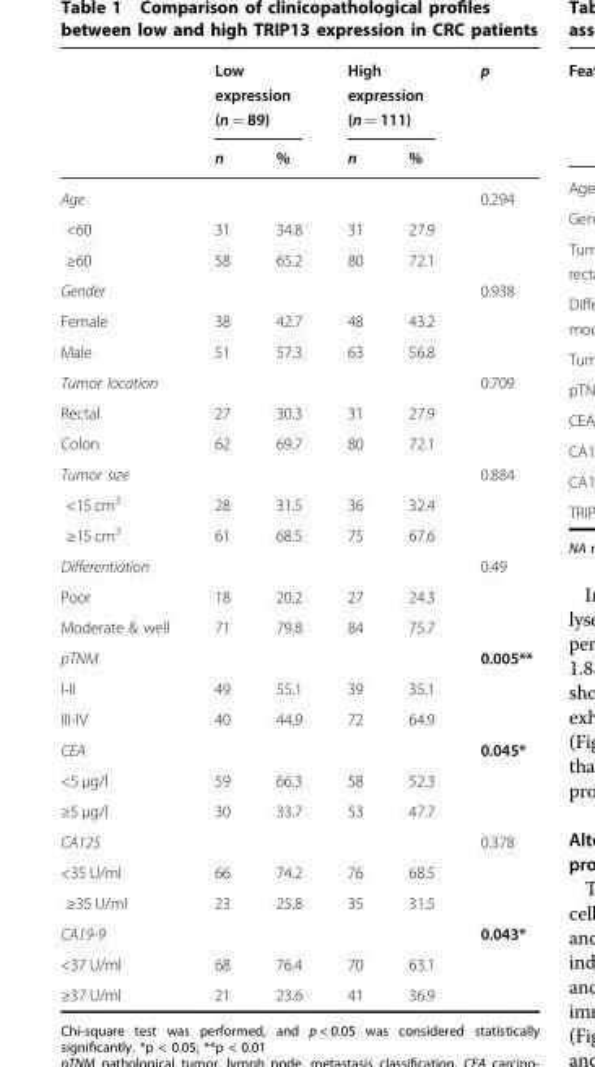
<table><thead><tr><td rowspan="2"></td><td colspan="2">Low expression (n = 89)</td><td colspan="2">High expression (n = 111)</td><td rowspan="2">p</td></tr><tr><td>n</td><td>%</td><td>n</td><td>%</td></tr></thead><tbody><tr><td>Age</td><td></td><td></td><td></td><td></td><td>0.294</td></tr><tr><td>&lt;60</td><td>31</td><td>34.8</td><td>31</td><td>27.9</td><td></td></tr><tr><td>≥60</td><td>58</td><td>65.2</td><td>80</td><td>72.1</td><td></td></tr><tr><td>Gender</td><td></td><td></td><td></td><td></td><td>0.938</td></tr><tr><td>Female</td><td>38</td><td>42.7</td><td>48</td><td>43.2</td><td></td></tr><tr><td>Male</td><td>51</td><td>57.3</td><td>63</td><td>56.8</td><td></td></tr><tr><td>Tumor location</td><td></td><td></td><td></td><td></td><td>0.709</td></tr><tr><td>Rectal</td><td>27</td><td>30.3</td><td>31</td><td>27.9</td><td></td></tr><tr><td>Colon</td><td>62</td><td>69.7</td><td>80</td><td>72.1</td><td></td></tr><tr><td>Tumor size</td><td></td><td></td><td></td><td></td><td>0.884</td></tr><tr><td>&lt;15 cm<sup>3</sup></td><td>28</td><td>31.5</td><td>36</td><td>32.4</td><td></td></tr><tr><td>≥15 cm<sup>3</sup></td><td>61</td><td>68.5</td><td>75</td><td>67.6</td><td></td></tr><tr><td>Differentiation</td><td></td><td></td><td></td><td></td><td>0.49</td></tr><tr><td>Poor</td><td>18</td><td>20.2</td><td>27</td><td>24.3</td><td></td></tr><tr><td>Moderate &amp; well</td><td>71</td><td>79.8</td><td>84</td><td>75.7</td><td></td></tr><tr><td>pTNM</td><td></td><td></td><td></td><td></td><td>0.005**</td></tr><tr><td>I-II</td><td>49</td><td>55.1</td><td>39</td><td>35.1</td><td></td></tr><tr><td>III-IV</td><td>40</td><td>44.9</td><td>72</td><td>64.9</td><td></td></tr><tr><td>CEA</td><td></td><td></td><td></td><td></td><td>0.045*</td></tr><tr><td>&lt;5 μg/l</td><td>59</td><td>66.3</td><td>58</td><td>52.3</td><td></td></tr><tr><td>≥5 μg/l</td><td>30</td><td>33.7</td><td>53</td><td>47.7</td><td></td></tr><tr><td>CA125</td><td></td><td></td><td></td><td></td><td>0.378</td></tr><tr><td>&lt;35 U/ml</td><td>66</td><td>74.2</td><td>76</td><td>68.5</td><td></td></tr><tr><td>≥35 U/ml</td><td>23</td><td>25.8</td><td>35</td><td>31.5</td><td></td></tr><tr><td>CA19-9</td><td></td><td></td><td></td><td></td><td>0.043*</td></tr><tr><td>&lt;37 U/ml</td><td>68</td><td>76.4</td><td>70</td><td>63.1</td><td></td></tr><tr><td>≥37 U/ml</td><td>21</td><td>23.6</td><td>41</td><td>36.9</td><td></td></tr></tbody></table>